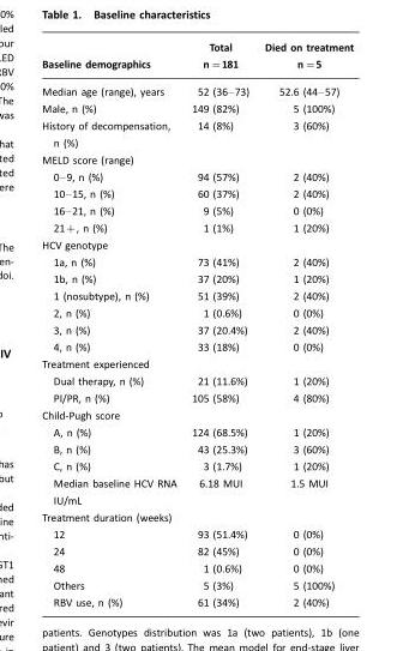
<table><thead><tr><td>Baseline demographics</td><td>Total n=181</td><td>Died on treatment n=5</td></tr></thead><tbody><tr><td>Median age (range), years</td><td>52 (36–73)</td><td>52.6 (44–57)</td></tr><tr><td>Male, n (%)</td><td>149 (82%)</td><td>5 (100%)</td></tr><tr><td>History of decompensation, n (%)</td><td>14 (8%)</td><td>3 (60%)</td></tr><tr><td colspan="3">MELD score (range)</td></tr><tr><td>0–9, n (%)</td><td>94 (57%)</td><td>2 (40%)</td></tr><tr><td>10–15, n (%)</td><td>60 (37%)</td><td>2 (40%)</td></tr><tr><td>16–21, n (%)</td><td>9 (5%)</td><td>0 (0%)</td></tr><tr><td>21+, n (%)</td><td>1 (1%)</td><td>1 (20%)</td></tr><tr><td colspan="3">HCV genotype</td></tr><tr><td>1a, n (%)</td><td>73 (41%)</td><td>2 (40%)</td></tr><tr><td>1b, n (%)</td><td>37 (20%)</td><td>1 (20%)</td></tr><tr><td>1 (nosubtype), n (%)</td><td>51 (39%)</td><td>2 (40%)</td></tr><tr><td>2, n (%)</td><td>1 (0.6%)</td><td>0 (0%)</td></tr><tr><td>3, n (%)</td><td>37 (20.4%)</td><td>2 (40%)</td></tr><tr><td>4, n (%)</td><td>33 (18%)</td><td>0 (0%)</td></tr><tr><td colspan="3">Treatment experienced</td></tr><tr><td>Dual therapy, n (%)</td><td>21 (11.6%)</td><td>1 (20%)</td></tr><tr><td>PI/PR, n (%)</td><td>105 (58%)</td><td>4 (80%)</td></tr><tr><td colspan="3">Child-Pugh score</td></tr><tr><td>A, n (%)</td><td>124 (68.5%)</td><td>1 (20%)</td></tr><tr><td>B, n (%)</td><td>43 (25.3%)</td><td>3 (60%)</td></tr><tr><td>C, n (%)</td><td>3 (1.7%)</td><td>1 (20%)</td></tr><tr><td>Median baseline HCV RNA IU/mL</td><td>6.18 MUI</td><td>1.5 MUI</td></tr><tr><td colspan="3">Treatment duration (weeks)</td></tr><tr><td>12</td><td>93 (51.4%)</td><td>0 (0%)</td></tr><tr><td>24</td><td>82 (45%)</td><td>0 (0%)</td></tr><tr><td>48</td><td>1 (0.6%)</td><td>0 (0%)</td></tr><tr><td>Others</td><td>5 (3%)</td><td>5 (100%)</td></tr><tr><td>RBV use, n (%)</td><td>61 (34%)</td><td>2 (40%)</td></tr></tbody></table>